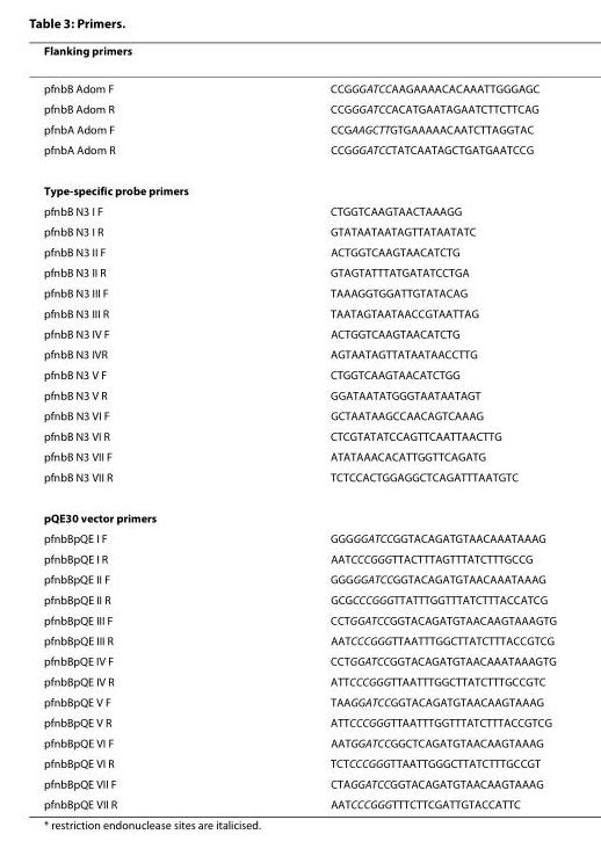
<table><thead><tr><td>Flanking primers</td><td></td></tr></thead><tbody><tr><td>pfnbB Adom F</td><td>CCGGGATCCAAGAAAACACAAATTGGGAGC</td></tr><tr><td>pfnbB Adom R</td><td>CCGGGATCCACATGAATAGAATCTTCTTCAG</td></tr><tr><td>pfnbA Adom F</td><td>CCGAAGCTTGTGAAAAACAATCTTAGGTAC</td></tr><tr><td>pfnbA Adom R</td><td>CCGGGATCCTATCAATAGCTGATGAATCCG</td></tr><tr><td colspan="2">Type-specific probe primers</td></tr><tr><td>pfnbB N3 I F</td><td>CTGGTCAAGTAACTAAAGG</td></tr><tr><td>pfnbB N3 I R</td><td>GTATAATAATAGTTATAATATC</td></tr><tr><td>pfnbB N3 II F</td><td>ACTGGTCAAGTAACATCTG</td></tr><tr><td>pfnbB N3 II R</td><td>GTAGTATTTATGATATCCTGA</td></tr><tr><td>pfnbB N3 III F</td><td>TAAAGGTGGATTGTATACAG</td></tr><tr><td>pfnbB N3 III R</td><td>TAATAGTAATAACCGTAATTAG</td></tr><tr><td>pfnbB N3 IV F</td><td>ACTGGTCAAGTAACATCTG</td></tr><tr><td>pfnbB N3 IVR</td><td>AGTAATAGTTATAATAACCTTG</td></tr><tr><td>pfnbB N3 V F</td><td>CTGGTCAAGTAACATCTGG</td></tr><tr><td>pfnbB N3 V R</td><td>GGATAATATGGGTAATAATAGT</td></tr><tr><td>pfnbB N3 VI F</td><td>GCTAATAAGCCAACAGTCAAAG</td></tr><tr><td>pfnbB N3 VI R</td><td>CTCGTATATCCAGTTCAATTAACTTG</td></tr><tr><td>pfnbB N3 VII F</td><td>ATATAAACACATTGGTTCAGATG</td></tr><tr><td>pfnbB N3 VII R</td><td>TCTCCACTGGAGGCTCAGATTTAATGTC</td></tr><tr><td colspan="2">pQE30 vector primers</td></tr><tr><td>pfnbBpQE I F</td><td>GGGGGATCCGGTACAGATGTAACAAATAAAG</td></tr><tr><td>pfnbBpQE I R</td><td>AATCCCGGGTTACTTTAGTTTATCTTTGCCG</td></tr><tr><td>pfnbBpQE II F</td><td>GGGGGATCCGGTACAGATGTAACAAATAAAG</td></tr><tr><td>pfnbBpQE II R</td><td>GCGCCCGGGTTATTTGGTTTATCTTTACCATCG</td></tr><tr><td>pfnbBpQE III F</td><td>CCTGGATCCGGTACAGATGTAACAAGTAAAGTG</td></tr><tr><td>pfnbBpQE III R</td><td>AATCCCGGGTTAATTTGGCTTATCTTTACCGTCG</td></tr><tr><td>pfnbBpQE IV F</td><td>CCTGGATCCGGTACAGATGTAACAAATAAAGTG</td></tr><tr><td>pfnbBpQE IV R</td><td>ATTCCCGGGTTAATTTGGCTTATCTTTGCCGTC</td></tr><tr><td>pfnbBpQE V F</td><td>TAAGGATCCGGTACAGATGTAACAAGTAAAG</td></tr><tr><td>pfnbBpQE V R</td><td>ATTCCCGGGTTAATTTGGTTTATCTTTACCGTCG</td></tr><tr><td>pfnbBpQE VI F</td><td>AATGGATCCGGCTCAGATGTAACAAGTAAAG</td></tr><tr><td>pfnbBpQE VI R</td><td>TCTCCCGGGTTAATTGGGCTTATCTTTGCCGT</td></tr><tr><td>pfnbBpQE VII F</td><td>CTAGGATCCGGTACAGATGTAACAAGTAAAG</td></tr><tr><td>pfnbBpQE VII R</td><td>AATCCCGGGTTTCTTCGATTGTACCATTC</td></tr></tbody></table>